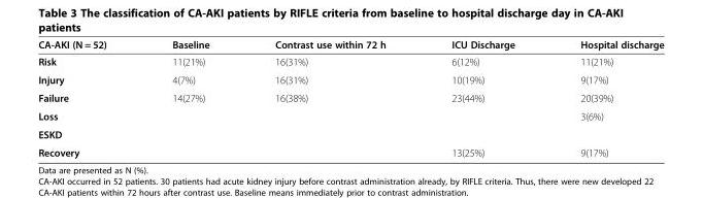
<table><thead><tr><td>CA-AKI (N = 52)</td><td>Baseline</td><td>Contrast use within 72 h</td><td>ICU Discharge</td><td>Hospital discharge</td></tr></thead><tbody><tr><td>Risk</td><td>11(21%)</td><td>16(31%)</td><td>6(12%)</td><td>11(21%)</td></tr><tr><td>Injury</td><td>4(7%)</td><td>16(31%)</td><td>10(19%)</td><td>9(17%)</td></tr><tr><td>Failure</td><td>14(27%)</td><td>16(38%)</td><td>23(44%)</td><td>20(39%)</td></tr><tr><td>Loss</td><td></td><td></td><td></td><td>3(6%)</td></tr><tr><td colspan="5">ESKD</td></tr><tr><td>Recovery</td><td></td><td></td><td>13(25%)</td><td>9(17%)</td></tr></tbody></table>